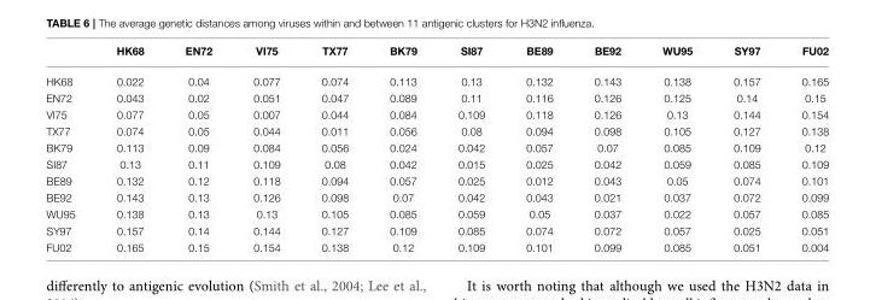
<table><thead><tr><td></td><td>HK68</td><td>EN72</td><td>VI75</td><td>TX77</td><td>BK79</td><td>SI87</td><td>BE89</td><td>BE92</td><td>WU95</td><td>SY97</td><td>FU02</td></tr></thead><tbody><tr><td>HK68</td><td>0.022</td><td>0.04</td><td>0.077</td><td>0.074</td><td>0.113</td><td>0.13</td><td>0.132</td><td>0.143</td><td>0.138</td><td>0.157</td><td>0.165</td></tr><tr><td>EN72</td><td>0.043</td><td>0.02</td><td>0.051</td><td>0.047</td><td>0.089</td><td>0.11</td><td>0.116</td><td>0.126</td><td>0.125</td><td>0.14</td><td>0.15</td></tr><tr><td>VI75</td><td>0.077</td><td>0.05</td><td>0.007</td><td>0.044</td><td>0.084</td><td>0.109</td><td>0.118</td><td>0.126</td><td>0.13</td><td>0.144</td><td>0.154</td></tr><tr><td>TX77</td><td>0.074</td><td>0.05</td><td>0.044</td><td>0.011</td><td>0.056</td><td>0.08</td><td>0.094</td><td>0.098</td><td>0.105</td><td>0.127</td><td>0.138</td></tr><tr><td>BK79</td><td>0.113</td><td>0.09</td><td>0.084</td><td>0.056</td><td>0.024</td><td>0.042</td><td>0.057</td><td>0.07</td><td>0.085</td><td>0.109</td><td>0.12</td></tr><tr><td>SI87</td><td>0.13</td><td>0.11</td><td>0.109</td><td>0.08</td><td>0.042</td><td>0.015</td><td>0.025</td><td>0.042</td><td>0.059</td><td>0.085</td><td>0.109</td></tr><tr><td>BE89</td><td>0.132</td><td>0.12</td><td>0.118</td><td>0.094</td><td>0.057</td><td>0.025</td><td>0.012</td><td>0.043</td><td>0.05</td><td>0.074</td><td>0.101</td></tr><tr><td>BE92</td><td>0.143</td><td>0.13</td><td>0.126</td><td>0.098</td><td>0.07</td><td>0.042</td><td>0.043</td><td>0.021</td><td>0.037</td><td>0.072</td><td>0.099</td></tr><tr><td>WU95</td><td>0.138</td><td>0.13</td><td>0.13</td><td>0.105</td><td>0.085</td><td>0.059</td><td>0.05</td><td>0.037</td><td>0.022</td><td>0.057</td><td>0.085</td></tr><tr><td>SY97</td><td>0.157</td><td>0.14</td><td>0.144</td><td>0.127</td><td>0.109</td><td>0.085</td><td>0.074</td><td>0.072</td><td>0.057</td><td>0.025</td><td>0.051</td></tr><tr><td>FU02</td><td>0.165</td><td>0.15</td><td>0.154</td><td>0.138</td><td>0.12</td><td>0.109</td><td>0.101</td><td>0.099</td><td>0.085</td><td>0.051</td><td>0.004</td></tr></tbody></table>